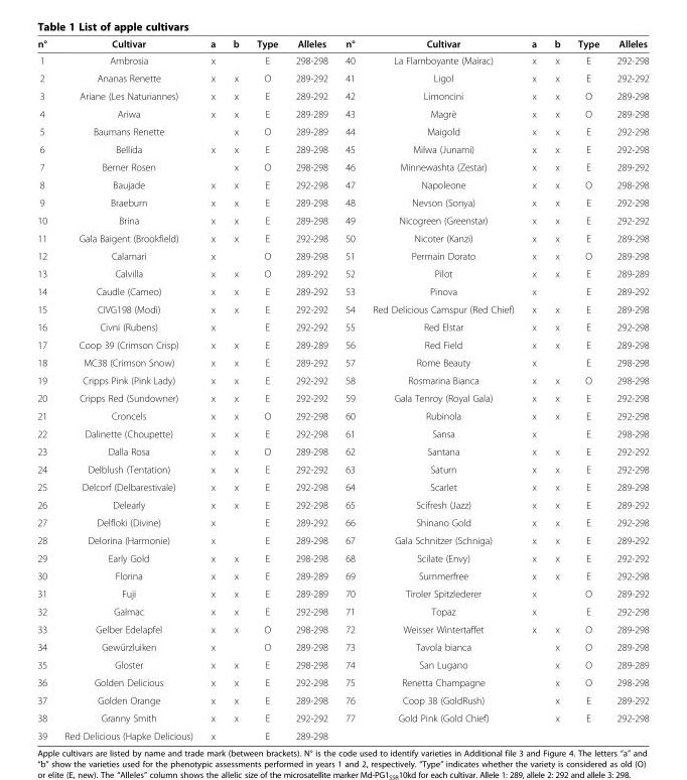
<table><thead><tr><td>n°</td><td>Cultivar</td><td>a</td><td>b</td><td>Type</td><td>Alleles</td><td>n°</td><td>Cultivar</td><td>a</td><td>b</td><td>Type</td><td>Alleles</td></tr></thead><tbody><tr><td>1</td><td>Ambrosia</td><td>x</td><td></td><td>E</td><td>298-298</td><td>40</td><td>La Flamboyante (Mairac)</td><td>x</td><td>x</td><td>E</td><td>292-298</td></tr><tr><td>2</td><td>Ananas Renette</td><td>x</td><td>x</td><td>O</td><td>289-292</td><td>41</td><td>Ligol</td><td>x</td><td>x</td><td>E</td><td>292-292</td></tr><tr><td>3</td><td>Ariane (Les Naturiannes)</td><td>x</td><td>x</td><td>E</td><td>289-292</td><td>42</td><td>Limoncini</td><td>x</td><td>x</td><td>O</td><td>289-298</td></tr><tr><td>4</td><td>Ariwa</td><td>x</td><td>x</td><td>E</td><td>289-289</td><td>43</td><td>Magrè</td><td>x</td><td>x</td><td>O</td><td>289-298</td></tr><tr><td>5</td><td>Baumans Renette</td><td></td><td>x</td><td>O</td><td>289-289</td><td>44</td><td>Maigold</td><td>x</td><td>x</td><td>E</td><td>292-298</td></tr><tr><td>6</td><td>Bellida</td><td>x</td><td>x</td><td>E</td><td>289-298</td><td>45</td><td>Milwa (Junami)</td><td>x</td><td>x</td><td>E</td><td>292-298</td></tr><tr><td>7</td><td>Berner Rosen</td><td></td><td>x</td><td>O</td><td>298-298</td><td>46</td><td>Minnewashta (Zestar)</td><td>x</td><td>x</td><td>E</td><td>289-292</td></tr><tr><td>8</td><td>Baujade</td><td>x</td><td>x</td><td>E</td><td>292-298</td><td>47</td><td>Napoleone</td><td>x</td><td>x</td><td>O</td><td>298-298</td></tr><tr><td>9</td><td>Braeburn</td><td>x</td><td>x</td><td>E</td><td>289-298</td><td>48</td><td>Nevson (Sonya)</td><td>x</td><td>x</td><td>E</td><td>292-298</td></tr><tr><td>10</td><td>Brina</td><td>x</td><td>x</td><td>E</td><td>289-298</td><td>49</td><td>Nicogreen (Greenstar)</td><td>x</td><td>x</td><td>E</td><td>292-292</td></tr><tr><td>11</td><td>Gala Baigent (Brookfield)</td><td>x</td><td>x</td><td>E</td><td>292-298</td><td>50</td><td>Nicoter (Kanzi)</td><td>x</td><td>x</td><td>E</td><td>289-298</td></tr><tr><td>12</td><td>Calamari</td><td>x</td><td></td><td>O</td><td>289-298</td><td>51</td><td>Permain Dorato</td><td>x</td><td>x</td><td>O</td><td>289-298</td></tr><tr><td>13</td><td>Calvilla</td><td>x</td><td>x</td><td>O</td><td>289-292</td><td>52</td><td>Pilot</td><td>x</td><td>x</td><td>E</td><td>289-289</td></tr><tr><td>14</td><td>Caudle (Cameo)</td><td>x</td><td>x</td><td>E</td><td>289-292</td><td>53</td><td>Pinova</td><td>x</td><td></td><td>E</td><td>289-292</td></tr><tr><td>15</td><td>CIVG198 (Modì)</td><td>x</td><td>x</td><td>E</td><td>292-292</td><td>54</td><td>Red Delicious Camspur (Red Chief)</td><td>x</td><td>x</td><td>E</td><td>289-298</td></tr><tr><td>16</td><td>Civni (Rubens)</td><td>x</td><td></td><td>E</td><td>292-292</td><td>55</td><td>Red Elstar</td><td>x</td><td>x</td><td>E</td><td>292-298</td></tr><tr><td>17</td><td>Coop 39 (Crimson Crisp)</td><td>x</td><td>x</td><td>E</td><td>289-289</td><td>56</td><td>Red Field</td><td>x</td><td>x</td><td>E</td><td>289-298</td></tr><tr><td>18</td><td>MC38 (Crimson Snow)</td><td>x</td><td>x</td><td>E</td><td>289-292</td><td>57</td><td>Rome Beauty</td><td>x</td><td></td><td>E</td><td>298-298</td></tr><tr><td>19</td><td>Cripps Pink (Pink Lady)</td><td>x</td><td>x</td><td>E</td><td>292-292</td><td>58</td><td>Rosmarina Bianca</td><td>x</td><td>x</td><td>O</td><td>298-298</td></tr><tr><td>20</td><td>Cripps Red (Sundowner)</td><td>x</td><td>x</td><td>E</td><td>292-292</td><td>59</td><td>Gala Tenroy (Royal Gala)</td><td>x</td><td>x</td><td>E</td><td>292-298</td></tr><tr><td>21</td><td>Croncels</td><td>x</td><td>x</td><td>O</td><td>292-298</td><td>60</td><td>Rubinola</td><td>x</td><td>x</td><td>E</td><td>292-298</td></tr><tr><td>22</td><td>Dalinette (Choupette)</td><td>x</td><td>x</td><td>E</td><td>292-298</td><td>61</td><td>Sansa</td><td>x</td><td></td><td>E</td><td>298-298</td></tr><tr><td>23</td><td>Dalla Rosa</td><td>x</td><td>x</td><td>O</td><td>289-298</td><td>62</td><td>Santana</td><td>x</td><td>x</td><td>E</td><td>292-292</td></tr><tr><td>24</td><td>Delblush (Tentation)</td><td>x</td><td>x</td><td>E</td><td>292-292</td><td>63</td><td>Saturn</td><td>x</td><td>x</td><td>E</td><td>292-298</td></tr><tr><td>25</td><td>Delcorf (Delbarestivale)</td><td>x</td><td>x</td><td>E</td><td>292-298</td><td>64</td><td>Scarlet</td><td>x</td><td>x</td><td>E</td><td>289-298</td></tr><tr><td>26</td><td>Delearly</td><td>x</td><td>x</td><td>E</td><td>292-298</td><td>65</td><td>Scifresh (Jazz)</td><td>x</td><td>x</td><td>E</td><td>289-292</td></tr><tr><td>27</td><td>Delfloki (Divine)</td><td>x</td><td></td><td>E</td><td>289-292</td><td>66</td><td>Shinano Gold</td><td>x</td><td>x</td><td>E</td><td>292-298</td></tr><tr><td>28</td><td>Delorina (Harmonie)</td><td>x</td><td></td><td>E</td><td>289-298</td><td>67</td><td>Gala Schnitzer (Schniga)</td><td>x</td><td>x</td><td>E</td><td>289-292</td></tr><tr><td>29</td><td>Early Gold</td><td>x</td><td>x</td><td>E</td><td>298-298</td><td>68</td><td>Scilate (Envy)</td><td>x</td><td>x</td><td>E</td><td>292-292</td></tr><tr><td>30</td><td>Florina</td><td>x</td><td>x</td><td>E</td><td>289-289</td><td>69</td><td>Summerfree</td><td>x</td><td>x</td><td>E</td><td>292-298</td></tr><tr><td>31</td><td>Fuji</td><td>x</td><td>x</td><td>E</td><td>289-289</td><td>70</td><td>Tiroler Spitzlederer</td><td>x</td><td></td><td>O</td><td>289-292</td></tr><tr><td>32</td><td>Galmac</td><td>x</td><td>x</td><td>E</td><td>292-298</td><td>71</td><td>Topaz</td><td>x</td><td></td><td>E</td><td>292-298</td></tr><tr><td>33</td><td>Gelber Edelapfel</td><td>x</td><td>x</td><td>O</td><td>298-298</td><td>72</td><td>Weisser Wintertaffet</td><td>x</td><td>x</td><td>O</td><td>289-298</td></tr><tr><td>34</td><td>Gewürzluiken</td><td>x</td><td></td><td>O</td><td>289-298</td><td>73</td><td>Tavola bianca</td><td></td><td>x</td><td>O</td><td>289-298</td></tr><tr><td>35</td><td>Gloster</td><td>x</td><td>x</td><td>E</td><td>298-298</td><td>74</td><td>San Lugano</td><td></td><td>x</td><td>O</td><td>289-289</td></tr><tr><td>36</td><td>Golden Delicious</td><td>x</td><td>x</td><td>E</td><td>292-298</td><td>75</td><td>Renetta Champagne</td><td></td><td>x</td><td>O</td><td>298-298</td></tr><tr><td>37</td><td>Golden Orange</td><td>x</td><td>x</td><td>E</td><td>289-298</td><td>76</td><td>Coop 38 (GoldRush)</td><td></td><td>x</td><td>E</td><td>289-292</td></tr><tr><td>38</td><td>Granny Smith</td><td>x</td><td>x</td><td>E</td><td>292-292</td><td>77</td><td>Gold Pink (Gold Chief)</td><td></td><td>x</td><td>E</td><td>292-298</td></tr><tr><td>39</td><td>Red Delicious (Hapke Delicious)</td><td>x</td><td></td><td>E</td><td>289-298</td><td></td><td></td><td></td><td></td><td></td><td></td></tr></tbody></table>